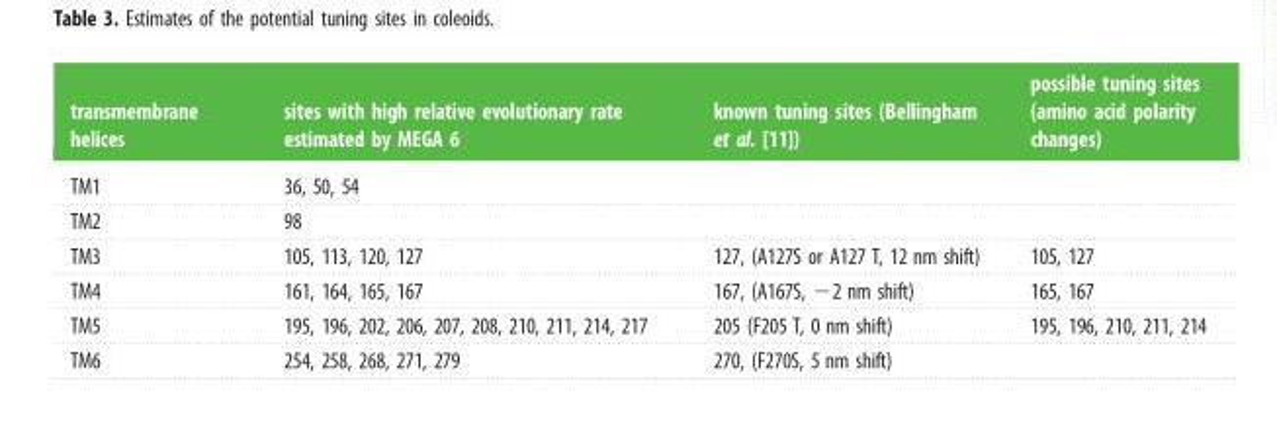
<table><thead><tr><td>transmembrane helices</td><td>sites with high relative evolutionary rate estimated by MEGA 6</td><td>known tuning sites (Bellingham et al. [11])</td><td>possible tuning sites (amino acid polarity changes)</td></tr></thead><tbody><tr><td>TM1</td><td>36, 50, 54</td><td></td><td></td></tr><tr><td>TM2</td><td>98</td><td></td><td></td></tr><tr><td>TM3</td><td>105, 113, 120, 127</td><td>127, (A127S or A127 T, 12 nm shift)</td><td>105, 127</td></tr><tr><td>TM4</td><td>161, 164, 165, 167</td><td>167, (A167S, −2 nm shift)</td><td>165, 167</td></tr><tr><td>TM5</td><td>195, 196, 202, 206, 207, 208, 210, 211, 214, 217</td><td>205 (F205 T, 0 nm shift)</td><td>195, 196, 210, 211, 214</td></tr><tr><td>TM6</td><td>254, 258, 268, 271, 279</td><td>270, (F270S, 5 nm shift)</td><td></td></tr></tbody></table>